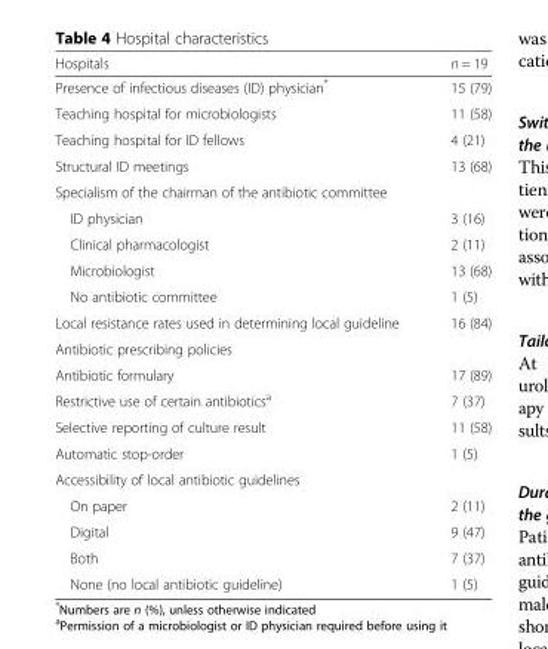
<table><thead><tr><td>Hospitals</td><td>n = 19</td></tr></thead><tbody><tr><td>Presence of infectious diseases (ID) physician*</td><td>15 (79)</td></tr><tr><td>Teaching hospital for microbiologists</td><td>11 (58)</td></tr><tr><td>Teaching hospital for ID fellows</td><td>4 (21)</td></tr><tr><td>Structural ID meetings</td><td>13 (68)</td></tr><tr><td colspan="2">Specialism of the chairman of the antibiotic committee</td></tr><tr><td>ID physician</td><td>3 (16)</td></tr><tr><td>Clinical pharmacologist</td><td>2 (11)</td></tr><tr><td>Microbiologist</td><td>13 (68)</td></tr><tr><td>No antibiotic committee</td><td>1 (5)</td></tr><tr><td>Local resistance rates used in determining local guideline</td><td>16 (84)</td></tr><tr><td colspan="2">Antibiotic prescribing policies</td></tr><tr><td>Antibiotic formulary</td><td>17 (89)</td></tr><tr><td>Restrictive use of certain antibiotics<sup>a</sup></td><td>7 (37)</td></tr><tr><td>Selective reporting of culture result</td><td>11 (58)</td></tr><tr><td>Automatic stop-order</td><td>1 (5)</td></tr><tr><td colspan="2">Accessibility of local antibiotic guidelines</td></tr><tr><td>On paper</td><td>2 (11)</td></tr><tr><td>Digital</td><td>9 (47)</td></tr><tr><td>Both</td><td>7 (37)</td></tr><tr><td>None (no local antibiotic guideline)</td><td>1 (5)</td></tr></tbody></table>